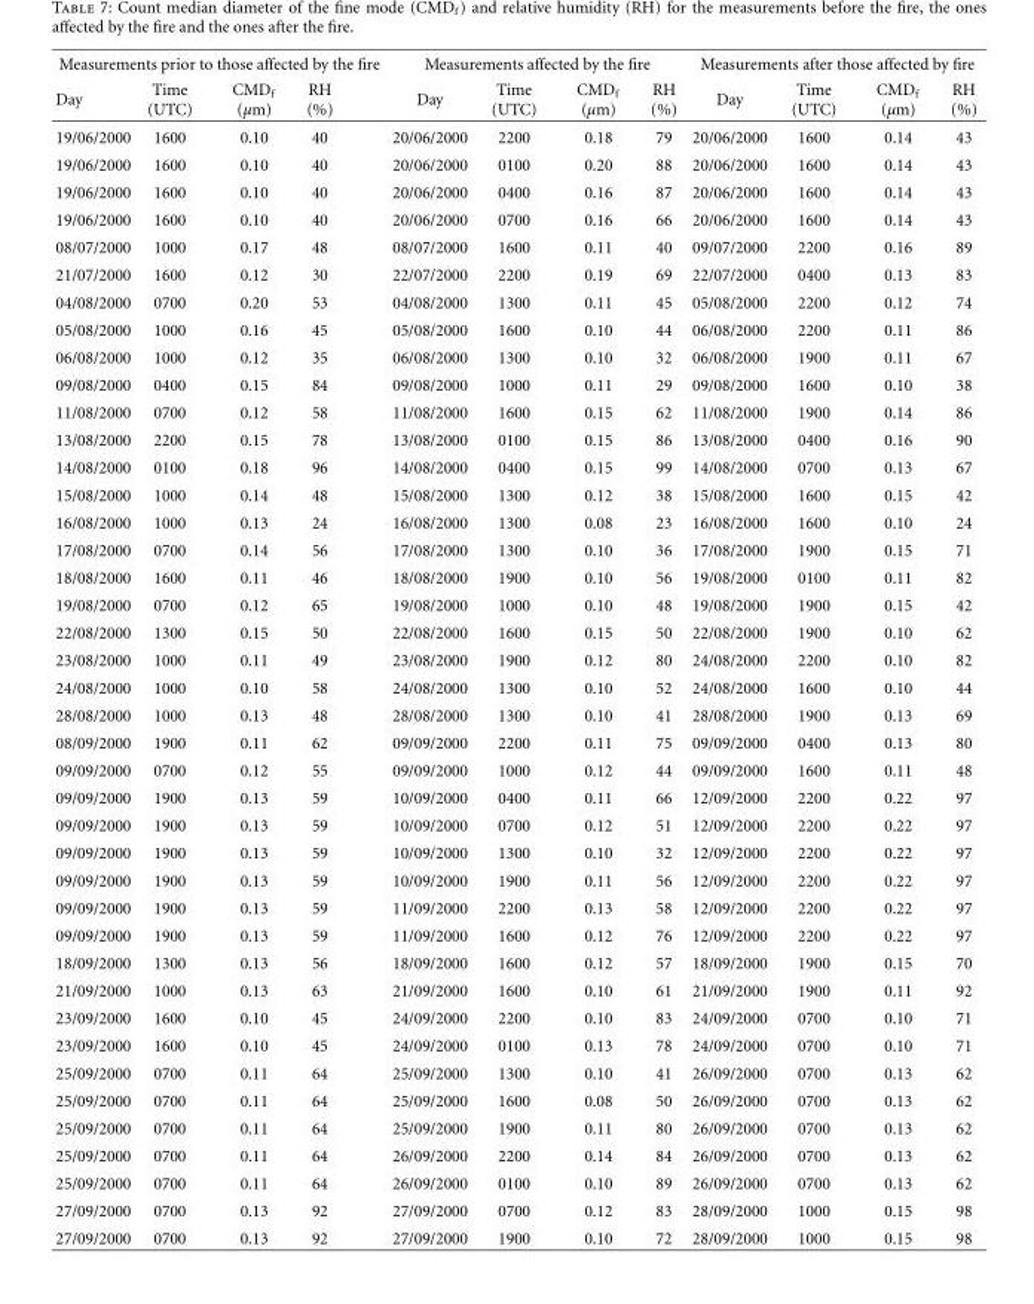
<table><thead><tr><td colspan="4">Measurements prior to those affected by the fire</td><td colspan="4">Measurements affected by the fire</td><td colspan="4">Measurements after those affected by fire</td></tr><tr><td>Day</td><td>Time (UTC)</td><td>CMD<sub>f</sub> (μm)</td><td>RH (%)</td><td>Day</td><td>Time (UTC)</td><td>CMD<sub>f</sub> (μm)</td><td>RH (%)</td><td>Day</td><td>Time (UTC)</td><td>CMD<sub>f</sub> (μm)</td><td>RH (%)</td></tr></thead><tbody><tr><td>19/06/2000</td><td>1600</td><td>0.10</td><td>40</td><td>20/06/2000</td><td>2200</td><td>0.18</td><td>79</td><td>20/06/2000</td><td>1600</td><td>0.14</td><td>43</td></tr><tr><td>19/06/2000</td><td>1600</td><td>0.10</td><td>40</td><td>20/06/2000</td><td>0100</td><td>0.20</td><td>88</td><td>20/06/2000</td><td>1600</td><td>0.14</td><td>43</td></tr><tr><td>19/06/2000</td><td>1600</td><td>0.10</td><td>40</td><td>20/06/2000</td><td>0400</td><td>0.16</td><td>87</td><td>20/06/2000</td><td>1600</td><td>0.14</td><td>43</td></tr><tr><td>19/06/2000</td><td>1600</td><td>0.10</td><td>40</td><td>20/06/2000</td><td>0700</td><td>0.16</td><td>66</td><td>20/06/2000</td><td>1600</td><td>0.14</td><td>43</td></tr><tr><td>08/07/2000</td><td>1000</td><td>0.17</td><td>48</td><td>08/07/2000</td><td>1600</td><td>0.11</td><td>40</td><td>09/07/2000</td><td>2200</td><td>0.16</td><td>89</td></tr><tr><td>21/07/2000</td><td>1600</td><td>0.12</td><td>30</td><td>22/07/2000</td><td>2200</td><td>0.19</td><td>69</td><td>22/07/2000</td><td>0400</td><td>0.13</td><td>83</td></tr><tr><td>04/08/2000</td><td>0700</td><td>0.20</td><td>53</td><td>04/08/2000</td><td>1300</td><td>0.11</td><td>45</td><td>05/08/2000</td><td>2200</td><td>0.12</td><td>74</td></tr><tr><td>05/08/2000</td><td>1000</td><td>0.16</td><td>45</td><td>05/08/2000</td><td>1600</td><td>0.10</td><td>44</td><td>06/08/2000</td><td>2200</td><td>0.11</td><td>86</td></tr><tr><td>06/08/2000</td><td>1000</td><td>0.12</td><td>35</td><td>06/08/2000</td><td>1300</td><td>0.10</td><td>32</td><td>06/08/2000</td><td>1900</td><td>0.11</td><td>67</td></tr><tr><td>09/08/2000</td><td>0400</td><td>0.15</td><td>84</td><td>09/08/2000</td><td>1000</td><td>0.11</td><td>29</td><td>09/08/2000</td><td>1600</td><td>0.10</td><td>38</td></tr><tr><td>11/08/2000</td><td>0700</td><td>0.12</td><td>58</td><td>11/08/2000</td><td>1600</td><td>0.15</td><td>62</td><td>11/08/2000</td><td>1900</td><td>0.14</td><td>86</td></tr><tr><td>13/08/2000</td><td>2200</td><td>0.15</td><td>78</td><td>13/08/2000</td><td>0100</td><td>0.15</td><td>86</td><td>13/08/2000</td><td>0400</td><td>0.16</td><td>90</td></tr><tr><td>14/08/2000</td><td>0100</td><td>0.18</td><td>96</td><td>14/08/2000</td><td>0400</td><td>0.15</td><td>99</td><td>14/08/2000</td><td>0700</td><td>0.13</td><td>67</td></tr><tr><td>15/08/2000</td><td>1000</td><td>0.14</td><td>48</td><td>15/08/2000</td><td>1300</td><td>0.12</td><td>38</td><td>15/08/2000</td><td>1600</td><td>0.15</td><td>42</td></tr><tr><td>16/08/2000</td><td>1000</td><td>0.13</td><td>24</td><td>16/08/2000</td><td>1300</td><td>0.08</td><td>23</td><td>16/08/2000</td><td>1600</td><td>0.10</td><td>24</td></tr><tr><td>17/08/2000</td><td>0700</td><td>0.14</td><td>56</td><td>17/08/2000</td><td>1300</td><td>0.10</td><td>36</td><td>17/08/2000</td><td>1900</td><td>0.15</td><td>71</td></tr><tr><td>18/08/2000</td><td>1600</td><td>0.11</td><td>46</td><td>18/08/2000</td><td>1900</td><td>0.10</td><td>56</td><td>19/08/2000</td><td>0100</td><td>0.11</td><td>82</td></tr><tr><td>19/08/2000</td><td>0700</td><td>0.12</td><td>65</td><td>19/08/2000</td><td>1000</td><td>0.10</td><td>48</td><td>19/08/2000</td><td>1900</td><td>0.15</td><td>42</td></tr><tr><td>22/08/2000</td><td>1300</td><td>0.15</td><td>50</td><td>22/08/2000</td><td>1600</td><td>0.15</td><td>50</td><td>22/08/2000</td><td>1900</td><td>0.10</td><td>62</td></tr><tr><td>23/08/2000</td><td>1000</td><td>0.11</td><td>49</td><td>23/08/2000</td><td>1900</td><td>0.12</td><td>80</td><td>24/08/2000</td><td>2200</td><td>0.10</td><td>82</td></tr><tr><td>24/08/2000</td><td>1000</td><td>0.10</td><td>58</td><td>24/08/2000</td><td>1300</td><td>0.10</td><td>52</td><td>24/08/2000</td><td>1600</td><td>0.10</td><td>44</td></tr><tr><td>28/08/2000</td><td>1000</td><td>0.13</td><td>48</td><td>28/08/2000</td><td>1300</td><td>0.10</td><td>41</td><td>28/08/2000</td><td>1900</td><td>0.13</td><td>69</td></tr><tr><td>08/09/2000</td><td>1900</td><td>0.11</td><td>62</td><td>09/09/2000</td><td>2200</td><td>0.11</td><td>75</td><td>09/09/2000</td><td>0400</td><td>0.13</td><td>80</td></tr><tr><td>09/09/2000</td><td>0700</td><td>0.12</td><td>55</td><td>09/09/2000</td><td>1000</td><td>0.12</td><td>44</td><td>09/09/2000</td><td>1600</td><td>0.11</td><td>48</td></tr><tr><td>09/09/2000</td><td>1900</td><td>0.13</td><td>59</td><td>10/09/2000</td><td>0400</td><td>0.11</td><td>66</td><td>12/09/2000</td><td>2200</td><td>0.22</td><td>97</td></tr><tr><td>09/09/2000</td><td>1900</td><td>0.13</td><td>59</td><td>10/09/2000</td><td>0700</td><td>0.12</td><td>51</td><td>12/09/2000</td><td>2200</td><td>0.22</td><td>97</td></tr><tr><td>09/09/2000</td><td>1900</td><td>0.13</td><td>59</td><td>10/09/2000</td><td>1300</td><td>0.10</td><td>32</td><td>12/09/2000</td><td>2200</td><td>0.22</td><td>97</td></tr><tr><td>09/09/2000</td><td>1900</td><td>0.13</td><td>59</td><td>10/09/2000</td><td>1900</td><td>0.11</td><td>56</td><td>12/09/2000</td><td>2200</td><td>0.22</td><td>97</td></tr><tr><td>09/09/2000</td><td>1900</td><td>0.13</td><td>59</td><td>11/09/2000</td><td>2200</td><td>0.13</td><td>58</td><td>12/09/2000</td><td>2200</td><td>0.22</td><td>97</td></tr><tr><td>09/09/2000</td><td>1900</td><td>0.13</td><td>59</td><td>11/09/2000</td><td>1600</td><td>0.12</td><td>76</td><td>12/09/2000</td><td>2200</td><td>0.22</td><td>97</td></tr><tr><td>18/09/2000</td><td>1300</td><td>0.13</td><td>56</td><td>18/09/2000</td><td>1600</td><td>0.12</td><td>57</td><td>18/09/2000</td><td>1900</td><td>0.15</td><td>70</td></tr><tr><td>21/09/2000</td><td>1000</td><td>0.13</td><td>63</td><td>21/09/2000</td><td>1600</td><td>0.10</td><td>61</td><td>21/09/2000</td><td>1900</td><td>0.11</td><td>92</td></tr><tr><td>23/09/2000</td><td>1600</td><td>0.10</td><td>45</td><td>24/09/2000</td><td>2200</td><td>0.10</td><td>83</td><td>24/09/2000</td><td>0700</td><td>0.10</td><td>71</td></tr><tr><td>23/09/2000</td><td>1600</td><td>0.10</td><td>45</td><td>24/09/2000</td><td>0100</td><td>0.13</td><td>78</td><td>24/09/2000</td><td>0700</td><td>0.10</td><td>71</td></tr><tr><td>25/09/2000</td><td>0700</td><td>0.11</td><td>64</td><td>25/09/2000</td><td>1300</td><td>0.10</td><td>41</td><td>26/09/2000</td><td>0700</td><td>0.13</td><td>62</td></tr><tr><td>25/09/2000</td><td>0700</td><td>0.11</td><td>64</td><td>25/09/2000</td><td>1600</td><td>0.08</td><td>50</td><td>26/09/2000</td><td>0700</td><td>0.13</td><td>62</td></tr><tr><td>25/09/2000</td><td>0700</td><td>0.11</td><td>64</td><td>25/09/2000</td><td>1900</td><td>0.11</td><td>80</td><td>26/09/2000</td><td>0700</td><td>0.13</td><td>62</td></tr><tr><td>25/09/2000</td><td>0700</td><td>0.11</td><td>64</td><td>26/09/2000</td><td>2200</td><td>0.14</td><td>84</td><td>26/09/2000</td><td>0700</td><td>0.13</td><td>62</td></tr><tr><td>25/09/2000</td><td>0700</td><td>0.11</td><td>64</td><td>26/09/2000</td><td>0100</td><td>0.10</td><td>89</td><td>26/09/2000</td><td>0700</td><td>0.13</td><td>62</td></tr><tr><td>27/09/2000</td><td>0700</td><td>0.13</td><td>92</td><td>27/09/2000</td><td>0700</td><td>0.12</td><td>83</td><td>28/09/2000</td><td>1000</td><td>0.15</td><td>98</td></tr><tr><td>27/09/2000</td><td>0700</td><td>0.13</td><td>92</td><td>27/09/2000</td><td>1900</td><td>0.10</td><td>72</td><td>28/09/2000</td><td>1000</td><td>0.15</td><td>98</td></tr></tbody></table>